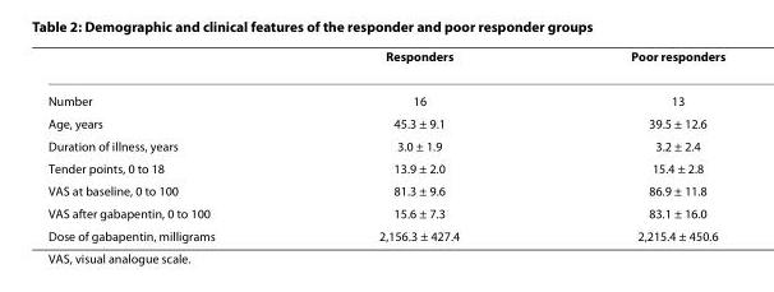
<table><thead><tr><td></td><td>Responders</td><td>Poor responders</td></tr></thead><tbody><tr><td>Number</td><td>16</td><td>13</td></tr><tr><td>Age, years</td><td>45.3 ± 9.1</td><td>39.5 ± 12.6</td></tr><tr><td>Duration of illness, years</td><td>3.0 ± 1.9</td><td>3.2 ± 2.4</td></tr><tr><td>Tender points, 0 to 18</td><td>13.9 ± 2.0</td><td>15.4 ± 2.8</td></tr><tr><td>VAS at baseline, 0 to 100</td><td>81.3 ± 9.6</td><td>86.9 ± 11.8</td></tr><tr><td>VAS after gabapentin, 0 to 100</td><td>15.6 ± 7.3</td><td>83.1 ± 16.0</td></tr><tr><td>Dose of gabapentin, milligrams</td><td>2,156.3 ± 427.4</td><td>2,215.4 ± 450.6</td></tr></tbody></table>